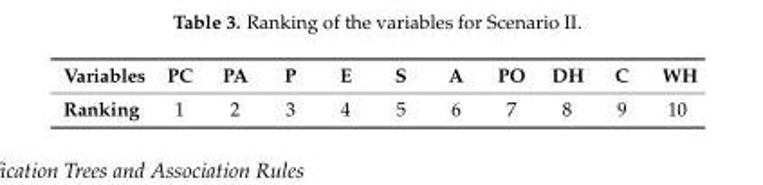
<table><thead><tr><td>Variables</td><td>PC</td><td>PA</td><td>P</td><td>E</td><td>S</td><td>A</td><td>PO</td><td>DH</td><td>C</td><td>WH</td></tr></thead><tbody><tr><td>Ranking</td><td>1</td><td>2</td><td>3</td><td>4</td><td>5</td><td>6</td><td>7</td><td>8</td><td>9</td><td>10</td></tr></tbody></table>